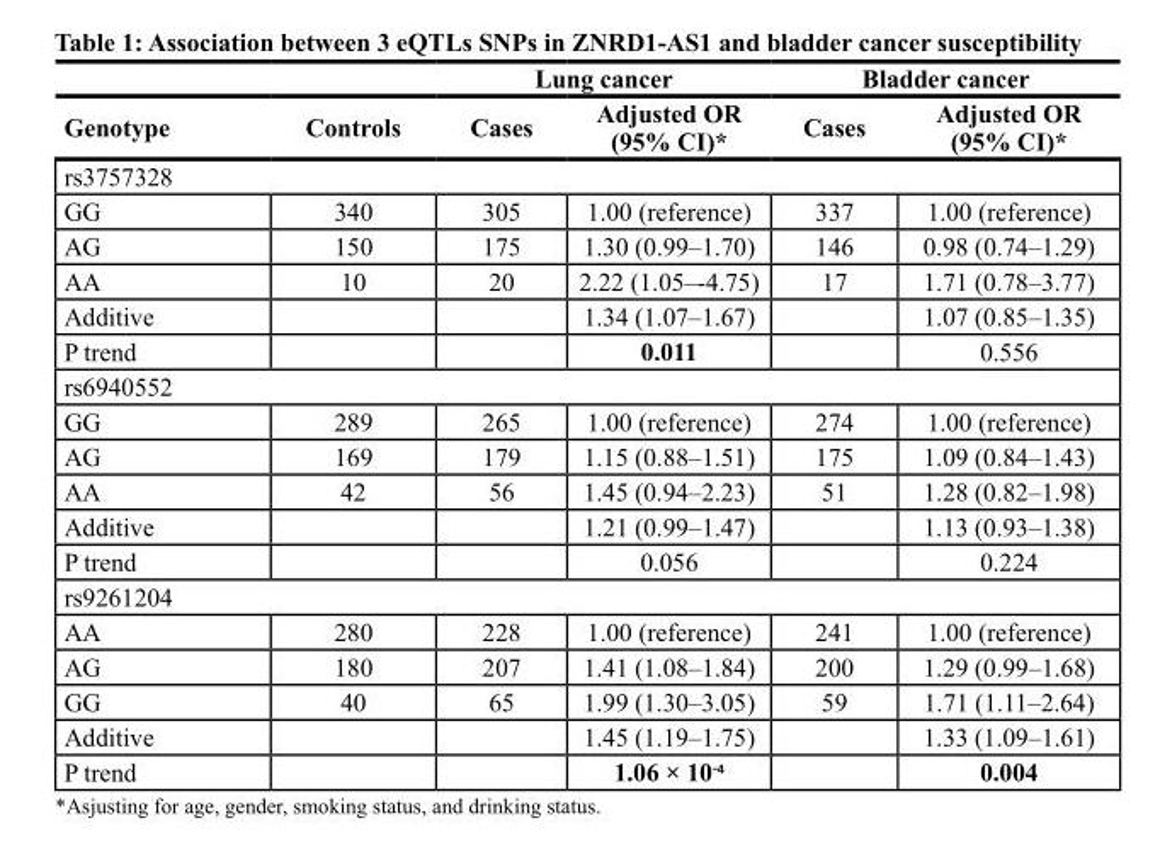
<table><thead><tr><td rowspan="2">Genotype</td><td rowspan="2">Controls</td><td colspan="2">Lung cancer</td><td colspan="2">Bladder cancer</td></tr><tr><td>Cases</td><td>Adjusted OR (95% cI)*</td><td>Cases</td><td>Adjusted OR (95% cI)*</td></tr></thead><tbody><tr><td colspan="6">rs3757328</td></tr><tr><td>GG</td><td>340</td><td>305</td><td>1.00 (reference)</td><td>337</td><td>1.00 (reference)</td></tr><tr><td>AG</td><td>150</td><td>175</td><td>1.30 (0.99–1.70)</td><td>146</td><td>0.98 (0.74–1.29)</td></tr><tr><td>AA</td><td>10</td><td>20</td><td>2.22 (1.05–-4.75)</td><td>17</td><td>1.71 (0.78–3.77)</td></tr><tr><td>Additive</td><td></td><td></td><td>1.34 (1.07–1.67)</td><td></td><td>1.07 (0.85–1.35)</td></tr><tr><td>P trend</td><td></td><td></td><td>0.011</td><td></td><td>0.556</td></tr><tr><td colspan="6">rs6940552</td></tr><tr><td>GG</td><td>289</td><td>265</td><td>1.00 (reference)</td><td>274</td><td>1.00 (reference)</td></tr><tr><td>AG</td><td>169</td><td>179</td><td>1.15 (0.88–1.51)</td><td>175</td><td>1.09 (0.84–1.43)</td></tr><tr><td>AA</td><td>42</td><td>56</td><td>1.45 (0.94–2.23)</td><td>51</td><td>1.28 (0.82–1.98)</td></tr><tr><td>Additive</td><td></td><td></td><td>1.21 (0.99–1.47)</td><td></td><td>1.13 (0.93–1.38)</td></tr><tr><td>P trend</td><td></td><td></td><td>0.056</td><td></td><td>0.224</td></tr><tr><td colspan="6">rs9261204</td></tr><tr><td>AA</td><td>280</td><td>228</td><td>1.00 (reference)</td><td>241</td><td>1.00 (reference)</td></tr><tr><td>AG</td><td>180</td><td>207</td><td>1.41 (1.08–1.84)</td><td>200</td><td>1.29 (0.99–1.68)</td></tr><tr><td>GG</td><td>40</td><td>65</td><td>1.99 (1.30–3.05)</td><td>59</td><td>1.71 (1.11–2.64)</td></tr><tr><td>Additive</td><td></td><td></td><td>1.45 (1.19–1.75)</td><td></td><td>1.33 (1.09–1.61)</td></tr><tr><td>P trend</td><td></td><td></td><td>1.06 × 10<sup>-4</sup></td><td></td><td>0.004</td></tr></tbody></table>